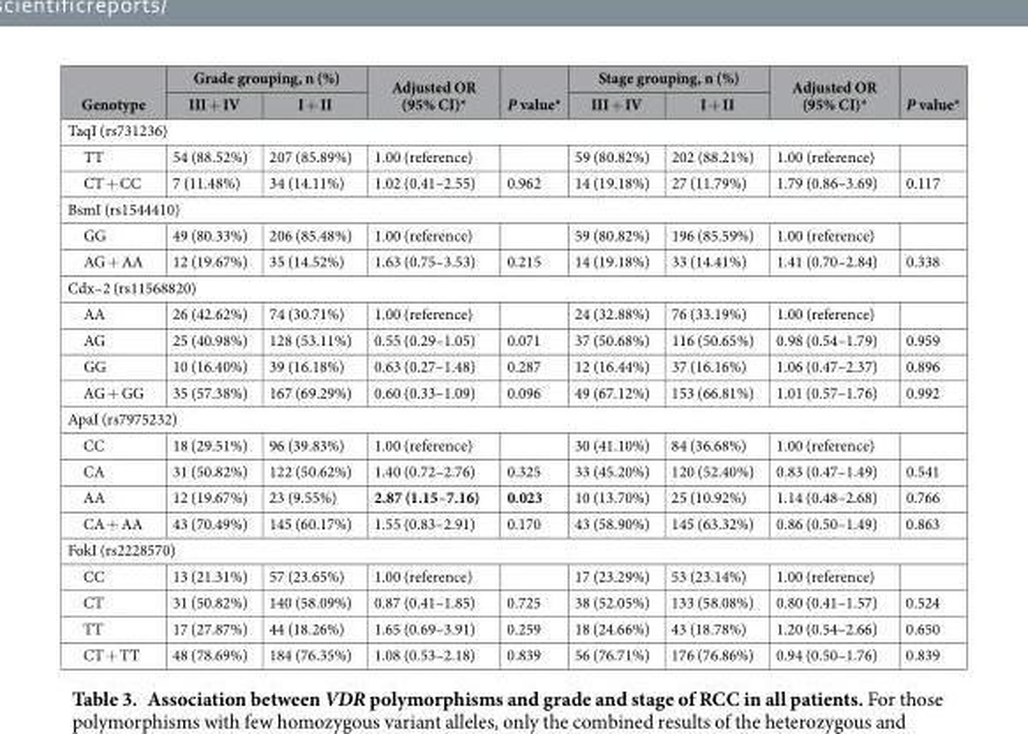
<table><thead><tr><td rowspan="2">Genotype</td><td colspan="2">Grade grouping, n (%)</td><td rowspan="2">Adjusted OR (95% CI)*</td><td rowspan="2">P value*</td><td colspan="2">Stage grouping, n (%)</td><td rowspan="2">Adjusted OR (95% CI)*</td><td rowspan="2">P value*</td></tr><tr><td>III + IV</td><td>I + II</td><td>III + IV</td><td>I + II</td></tr></thead><tbody><tr><td colspan="9">TaqI (rs731236)</td></tr><tr><td>TT</td><td>54 (88.52%)</td><td>207 (85.89%)</td><td>1.00 (reference)</td><td></td><td>59 (80.82%)</td><td>202 (88.21%)</td><td>1.00 (reference)</td><td></td></tr><tr><td>CT + CC</td><td>7 (11.48%)</td><td>34 (14.11%)</td><td>1.02 (0.41–2.55)</td><td>0.962</td><td>14 (19.18%)</td><td>27 (11.79%)</td><td>1.79 (0.86–3.69)</td><td>0.117</td></tr><tr><td colspan="9">BsmI (rs1544410)</td></tr><tr><td>GG</td><td>49 (80.33%)</td><td>206 (85.48%)</td><td>1.00 (reference)</td><td></td><td>59 (80.82%)</td><td>196 (85.59%)</td><td>1.00 (reference)</td><td></td></tr><tr><td>AG + AA</td><td>12 (19.67%)</td><td>35 (14.52%)</td><td>1.63 (0.75–3.53)</td><td>0.215</td><td>14 (19.18%)</td><td>33 (14.41%)</td><td>1.41 (0.70–2.84)</td><td>0.338</td></tr><tr><td colspan="9">Cdx–2 (rs11568820)</td></tr><tr><td>AA</td><td>26 (42.62%)</td><td>74 (30.71%)</td><td>1.00 (reference)</td><td></td><td>24 (32.88%)</td><td>76 (33.19%)</td><td>1.00 (reference)</td><td></td></tr><tr><td>AG</td><td>25 (40.98%)</td><td>128 (53.11%)</td><td>0.55 (0.29–1.05)</td><td>0.071</td><td>37 (50.68%)</td><td>116 (50.65%)</td><td>0.98 (0.54–1.79)</td><td>0.959</td></tr><tr><td>GG</td><td>10 (16.40%)</td><td>39 (16.18%)</td><td>0.63 (0.27–1.48)</td><td>0.287</td><td>12 (16.44%)</td><td>37 (16.16%)</td><td>1.06 (0.47–2.37)</td><td>0.896</td></tr><tr><td>AG + GG</td><td>35 (57.38%)</td><td>167 (69.29%)</td><td>0.60 (0.33–1.09)</td><td>0.096</td><td>49 (67.12%)</td><td>153 (66.81%)</td><td>1.01 (0.57–1.76)</td><td>0.992</td></tr><tr><td colspan="9">ApaI (rs7975232)</td></tr><tr><td>CC</td><td>18 (29.51%)</td><td>96 (39.83%)</td><td>1.00 (reference)</td><td></td><td>30 (41.10%)</td><td>84 (36.68%)</td><td>1.00 (reference)</td><td></td></tr><tr><td>CA</td><td>31 (50.82%)</td><td>122 (50.62%)</td><td>1.40 (0.72–2.76)</td><td>0.325</td><td>33 (45.20%)</td><td>120 (52.40%)</td><td>0.83 (0.47–1.49)</td><td>0.541</td></tr><tr><td>AA</td><td>12 (19.67%)</td><td>23 (9.55%)</td><td>2.87 (1.15–7.16)</td><td>0.023</td><td>10 (13.70%)</td><td>25 (10.92%)</td><td>1.14 (0.48–2.68)</td><td>0.766</td></tr><tr><td>CA + AA</td><td>43 (70.49%)</td><td>145 (60.17%)</td><td>1.55 (0.83–2.91)</td><td>0.170</td><td>43 (58.90%)</td><td>145 (63.32%)</td><td>0.86 (0.50–1.49)</td><td>0.863</td></tr><tr><td colspan="9">FokI (rs2228570)</td></tr><tr><td>CC</td><td>13 (21.31%)</td><td>57 (23.65%)</td><td>1.00 (reference)</td><td></td><td>17 (23.29%)</td><td>53 (23.14%)</td><td>1.00 (reference)</td><td></td></tr><tr><td>CT</td><td>31 (50.82%)</td><td>140 (58.09%)</td><td>0.87 (0.41–1.85)</td><td>0.725</td><td>38 (52.05%)</td><td>133 (58.08%)</td><td>0.80 (0.41–1.57)</td><td>0.524</td></tr><tr><td>TT</td><td>17 (27.87%)</td><td>44 (18.26%)</td><td>1.65 (0.69–3.91)</td><td>0.259</td><td>18 (24.66%)</td><td>43 (18.78%)</td><td>1.20 (0.54–2.66)</td><td>0.650</td></tr><tr><td>CT + TT</td><td>48 (78.69%)</td><td>184 (76.35%)</td><td>1.08 (0.53–2.18)</td><td>0.839</td><td>56 (76.71%)</td><td>176 (76.86%)</td><td>0.94 (0.50–1.76)</td><td>0.839</td></tr></tbody></table>